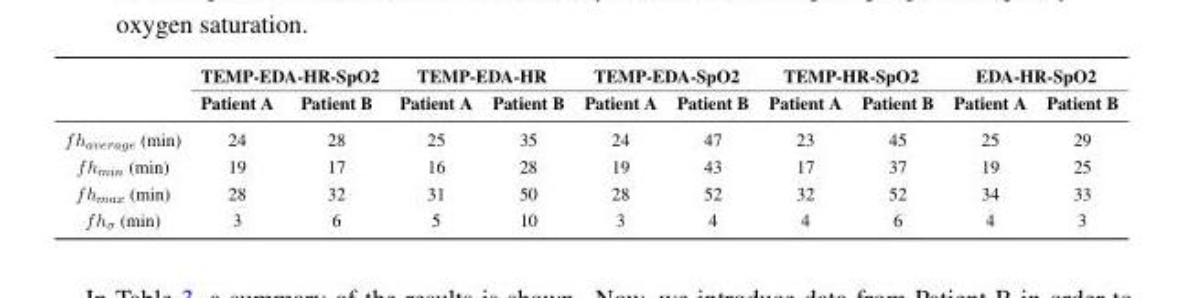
<table><thead><tr><td rowspan="2"></td><td colspan="2">TEMP-EDA-HR-SpO2</td><td colspan="2">TEMP-EDA-HR</td><td colspan="2">TEMP-EDA-SpO2</td><td colspan="2">TEMP-HR-SpO2</td><td colspan="2">EDA-HR-SpO2</td></tr><tr><td>Patient A</td><td>Patient B</td><td>Patient A</td><td>Patient B</td><td>Patient A</td><td>Patient B</td><td>Patient A</td><td>Patient B</td><td>Patient A</td><td>Patient B</td></tr></thead><tbody><tr><td>fh<sub>average</sub> (min)</td><td>24</td><td>28</td><td>25</td><td>35</td><td>24</td><td>47</td><td>23</td><td>45</td><td>25</td><td>29</td></tr><tr><td>fh<sub>min</sub> (min)</td><td>19</td><td>17</td><td>16</td><td>28</td><td>19</td><td>43</td><td>17</td><td>37</td><td>19</td><td>25</td></tr><tr><td>fh<sub>max</sub> (min)</td><td>28</td><td>32</td><td>31</td><td>50</td><td>28</td><td>52</td><td>32</td><td>52</td><td>34</td><td>33</td></tr><tr><td>fh<sub>σ</sub> (min)</td><td>3</td><td>6</td><td>5</td><td>10</td><td>3</td><td>4</td><td>4</td><td>6</td><td>4</td><td>3</td></tr></tbody></table>